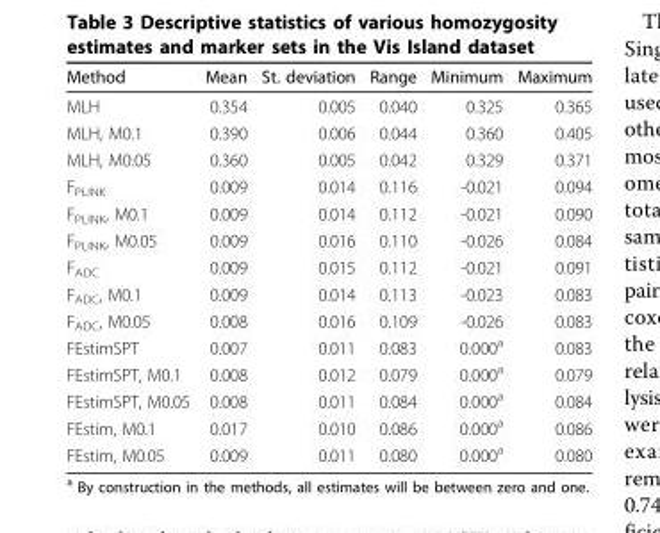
<table><thead><tr><td>Method</td><td>Mean</td><td>St. deviation</td><td>Range</td><td>Minimum</td><td>Maximum</td></tr></thead><tbody><tr><td>MLH</td><td>0.354</td><td>0.005</td><td>0.040</td><td>0.325</td><td>0.365</td></tr><tr><td>MLH, M0.1</td><td>0.390</td><td>0.006</td><td>0.044</td><td>0.360</td><td>0.405</td></tr><tr><td>MLH, M0.05</td><td>0.360</td><td>0.005</td><td>0.042</td><td>0.329</td><td>0.371</td></tr><tr><td>F<sub>PLINK</sub></td><td>0.009</td><td>0.014</td><td>0.116</td><td>-0.021</td><td>0.094</td></tr><tr><td>F<sub>PLINK</sub>, M0.1</td><td>0.009</td><td>0.014</td><td>0.112</td><td>-0.021</td><td>0.090</td></tr><tr><td>F<sub>PLINK</sub>, M0.05</td><td>0.009</td><td>0.016</td><td>0.110</td><td>-0.026</td><td>0.084</td></tr><tr><td>F<sub>ADC</sub></td><td>0.009</td><td>0.015</td><td>0.112</td><td>-0.021</td><td>0.091</td></tr><tr><td>F<sub>ADC</sub>, M0.1</td><td>0.009</td><td>0.014</td><td>0.113</td><td>-0.023</td><td>0.083</td></tr><tr><td>F<sub>ADC</sub>, M0.05</td><td>0.008</td><td>0.016</td><td>0.109</td><td>-0.026</td><td>0.083</td></tr><tr><td>FEstimSPT</td><td>0.007</td><td>0.011</td><td>0.083</td><td>0.000<sup>a</sup></td><td>0.083</td></tr><tr><td>FEstimSPT, M0.1</td><td>0.008</td><td>0.012</td><td>0.079</td><td>0.000<sup>a</sup></td><td>0.079</td></tr><tr><td>FEstimSPT, M0.05</td><td>0.008</td><td>0.011</td><td>0.084</td><td>0.000<sup>a</sup></td><td>0.084</td></tr><tr><td>FEstim, M0.1</td><td>0.017</td><td>0.010</td><td>0.086</td><td>0.000<sup>a</sup></td><td>0.086</td></tr><tr><td>FEstim, M0.05</td><td>0.009</td><td>0.011</td><td>0.080</td><td>0.000<sup>a</sup></td><td>0.080</td></tr></tbody></table>